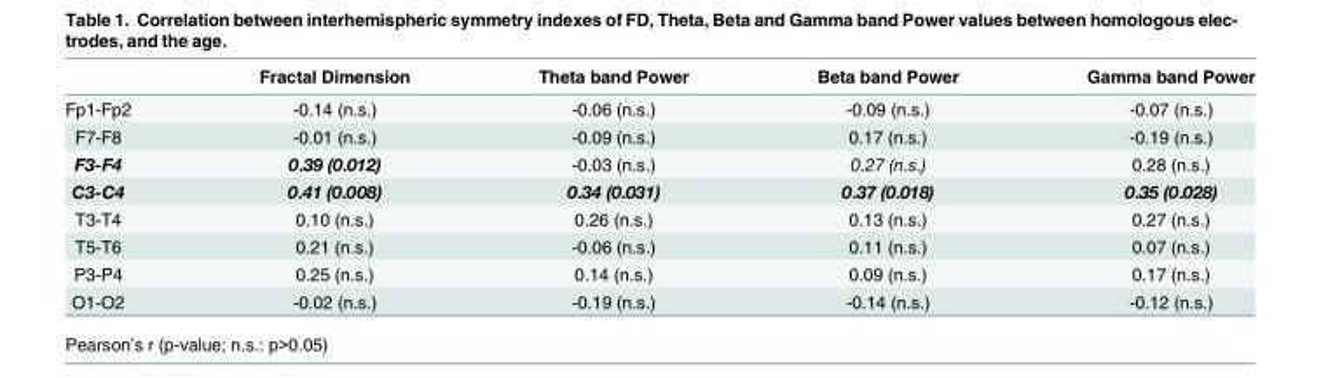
<table><thead><tr><td></td><td>Fractal Dimension</td><td>Theta band Power</td><td>Beta band Power</td><td>Gamma band Power</td></tr></thead><tbody><tr><td>Fp1-Fp2</td><td>-0.14 (n.s.)</td><td>-0.06 (n.s.)</td><td>-0.09 (n.s.)</td><td>-0.07 (n.s.)</td></tr><tr><td>F7-F8</td><td>-0.01 (n.s.)</td><td>-0.09 (n.s.)</td><td>0.17 (n.s.)</td><td>-0.19 (n.s.)</td></tr><tr><td>F3-F4</td><td>0.39 (0.012)</td><td>-0.03 (n.s.)</td><td>0.27 (n.s.)</td><td>0.28 (n.s.)</td></tr><tr><td>C3-C4</td><td>0.41 (0.008)</td><td>0.34 (0.031)</td><td>0.37 (0.018)</td><td>0.35 (0.028)</td></tr><tr><td>T3-T4</td><td>0.10 (n.s.)</td><td>0.26 (n.s.)</td><td>0.13 (n.s.)</td><td>0.27 (n.s.)</td></tr><tr><td>T5-T6</td><td>0.21 (n.s.)</td><td>-0.06 (n.s.)</td><td>0.11 (n.s.)</td><td>0.07 (n.s.)</td></tr><tr><td>P3-P4</td><td>0.25 (n.s.)</td><td>0.14 (n.s.)</td><td>0.09 (n.s.)</td><td>0.17 (n.s.)</td></tr><tr><td>O1-O2</td><td>-0.02 (n.s.)</td><td>-0.19 (n.s.)</td><td>-0.14 (n.s.)</td><td>-0.12 (n.s.)</td></tr></tbody></table>